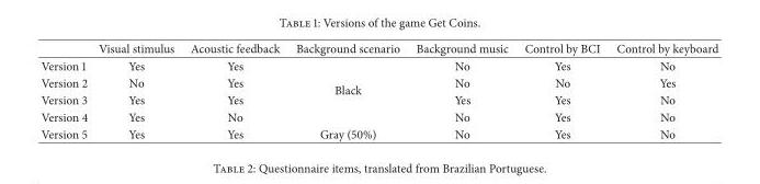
<table><thead><tr><td></td><td>Visual stimulus</td><td>Acoustic feedback</td><td>Background scenario</td><td>Background music</td><td>Control by BCI</td><td>Control by keyboard</td></tr></thead><tbody><tr><td>Version 1</td><td>Yes</td><td>Yes</td><td rowspan="4">Black</td><td>No</td><td>Yes</td><td>No</td></tr><tr><td>Version 2</td><td>No</td><td>Yes</td><td>No</td><td>No</td><td>Yes</td></tr><tr><td>Version 3</td><td>Yes</td><td>Yes</td><td>Yes</td><td>Yes</td><td>No</td></tr><tr><td>Version 4</td><td>Yes</td><td>No</td><td>No</td><td>Yes</td><td>No</td></tr><tr><td>Version 5</td><td>Yes</td><td>Yes</td><td>Gray (50%)</td><td>No</td><td>Yes</td><td>No</td></tr></tbody></table>